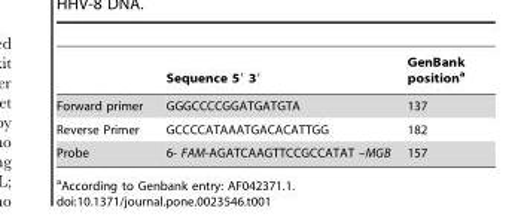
<table><thead><tr><td></td><td>Sequence 5′ 3′</td><td>GenBank position<sup>a</sup></td></tr></thead><tbody><tr><td>Forward primer</td><td>GGGCCCCGGATGATGTA</td><td>137</td></tr><tr><td>Reverse Primer</td><td>GCCCCATAAATGACACATTGG</td><td>182</td></tr><tr><td>Probe</td><td>6- FAM-AGATCAAGTTCCGCCATAT –MGB</td><td>157</td></tr></tbody></table>